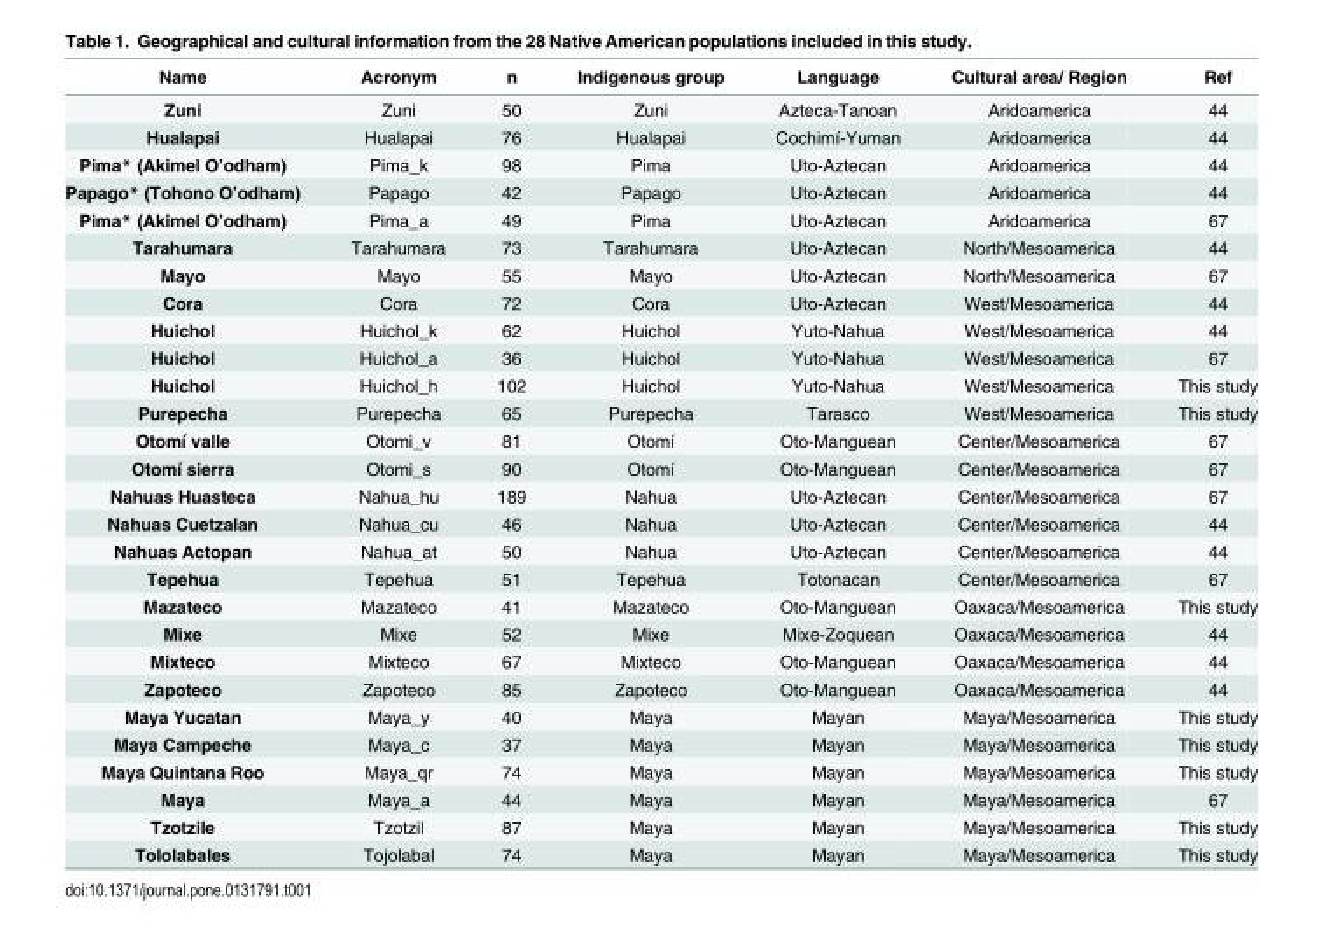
<table><thead><tr><td>Name</td><td>Acronym</td><td>n</td><td>Indigenous group</td><td>Language</td><td>Cultural area/ Region</td><td>Ref</td></tr></thead><tbody><tr><td>Zuni</td><td>Zuni</td><td>50</td><td>Zuni</td><td>Azteca-Tanoan</td><td>Aridoamerica</td><td>44</td></tr><tr><td>Hualapai</td><td>Hualapai</td><td>76</td><td>Hualapai</td><td>Cochimí-Yuman</td><td>Aridoamerica</td><td>44</td></tr><tr><td>Pima* (Akimel O’odham)</td><td>Pima_k</td><td>98</td><td>Pima</td><td>Uto-Aztecan</td><td>Aridoamerica</td><td>44</td></tr><tr><td>Papago* (Tohono O’odham)</td><td>Papago</td><td>42</td><td>Papago</td><td>Uto-Aztecan</td><td>Aridoamerica</td><td>44</td></tr><tr><td>Pima* (Akimel O’odham)</td><td>Pima_a</td><td>49</td><td>Pima</td><td>Uto-Aztecan</td><td>Aridoamerica</td><td>67</td></tr><tr><td>Tarahumara</td><td>Tarahumara</td><td>73</td><td>Tarahumara</td><td>Uto-Aztecan</td><td>North/Mesoamerica</td><td>44</td></tr><tr><td>Mayo</td><td>Mayo</td><td>55</td><td>Mayo</td><td>Uto-Aztecan</td><td>North/Mesoamerica</td><td>67</td></tr><tr><td>Cora</td><td>Cora</td><td>72</td><td>Cora</td><td>Uto-Aztecan</td><td>West/Mesoamerica</td><td>44</td></tr><tr><td>Huichol</td><td>Huichol_k</td><td>62</td><td>Huichol</td><td>Yuto-Nahua</td><td>West/Mesoamerica</td><td>44</td></tr><tr><td>Huichol</td><td>Huichol_a</td><td>36</td><td>Huichol</td><td>Yuto-Nahua</td><td>West/Mesoamerica</td><td>67</td></tr><tr><td>Huichol</td><td>Huichol_h</td><td>102</td><td>Huichol</td><td>Yuto-Nahua</td><td>West/Mesoamerica</td><td>This study</td></tr><tr><td>Purepecha</td><td>Purepecha</td><td>65</td><td>Purepecha</td><td>Tarasco</td><td>West/Mesoamerica</td><td>This study</td></tr><tr><td>Otomí valle</td><td>Otomi_v</td><td>81</td><td>Otomí</td><td>Oto-Manguean</td><td>Center/Mesoamerica</td><td>67</td></tr><tr><td>Otomí sierra</td><td>Otomi_s</td><td>90</td><td>Otomí</td><td>Oto-Manguean</td><td>Center/Mesoamerica</td><td>67</td></tr><tr><td>Nahuas Huasteca</td><td>Nahua_hu</td><td>189</td><td>Nahua</td><td>Uto-Aztecan</td><td>Center/Mesoamerica</td><td>67</td></tr><tr><td>Nahuas Cuetzalan</td><td>Nahua_cu</td><td>46</td><td>Nahua</td><td>Uto-Aztecan</td><td>Center/Mesoamerica</td><td>44</td></tr><tr><td>Nahuas Actopan</td><td>Nahua_at</td><td>50</td><td>Nahua</td><td>Uto-Aztecan</td><td>Center/Mesoamerica</td><td>44</td></tr><tr><td>Tepehua</td><td>Tepehua</td><td>51</td><td>Tepehua</td><td>Totonacan</td><td>Center/Mesoamerica</td><td>67</td></tr><tr><td>Mazateco</td><td>Mazateco</td><td>41</td><td>Mazateco</td><td>Oto-Manguean</td><td>Oaxaca/Mesoamerica</td><td>This study</td></tr><tr><td>Mixe</td><td>Mixe</td><td>52</td><td>Mixe</td><td>Mixe-Zoquean</td><td>Oaxaca/Mesoamerica</td><td>44</td></tr><tr><td>Mixteco</td><td>Mixteco</td><td>67</td><td>Mixteco</td><td>Oto-Manguean</td><td>Oaxaca/Mesoamerica</td><td>44</td></tr><tr><td>Zapoteco</td><td>Zapoteco</td><td>85</td><td>Zapoteco</td><td>Oto-Manguean</td><td>Oaxaca/Mesoamerica</td><td>44</td></tr><tr><td>Maya Yucatan</td><td>Maya_y</td><td>40</td><td>Maya</td><td>Mayan</td><td>Maya/Mesoamerica</td><td>This study</td></tr><tr><td>Maya Campeche</td><td>Maya_c</td><td>37</td><td>Maya</td><td>Mayan</td><td>Maya/Mesoamerica</td><td>This study</td></tr><tr><td>Maya Quintana Roo</td><td>Maya_qr</td><td>74</td><td>Maya</td><td>Mayan</td><td>Maya/Mesoamerica</td><td>This study</td></tr><tr><td>Maya</td><td>Maya_a</td><td>44</td><td>Maya</td><td>Mayan</td><td>Maya/Mesoamerica</td><td>67</td></tr><tr><td>Tzotzile</td><td>Tzotzil</td><td>87</td><td>Maya</td><td>Mayan</td><td>Maya/Mesoamerica</td><td>This study</td></tr><tr><td>Tololabales</td><td>Tojolabal</td><td>74</td><td>Maya</td><td>Mayan</td><td>Maya/Mesoamerica</td><td>This study</td></tr></tbody></table>